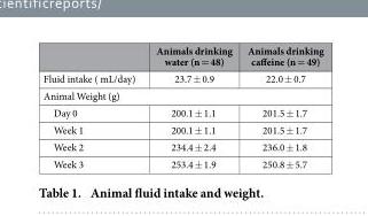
<table><thead><tr><td></td><td>Animals drinking water (n = 48)</td><td>Animals drinking caffeine (n = 49)</td></tr></thead><tbody><tr><td>Fluid intake ( mL/day)</td><td>23.7 ± 0.9</td><td>22.0 ± 0.7</td></tr><tr><td colspan="3">Animal Weight (g)</td></tr><tr><td>Day 0</td><td>200.1 ± 1.1</td><td>201.5 ± 1.7</td></tr><tr><td>Week 1</td><td>200.1 ± 1.1</td><td>201.5 ± 1.7</td></tr><tr><td>Week 2</td><td>234.4 ± 2.4</td><td>236.0 ± 1.8</td></tr><tr><td>Week 3</td><td>253.4 ± 1.9</td><td>250.8 ± 5.7</td></tr></tbody></table>